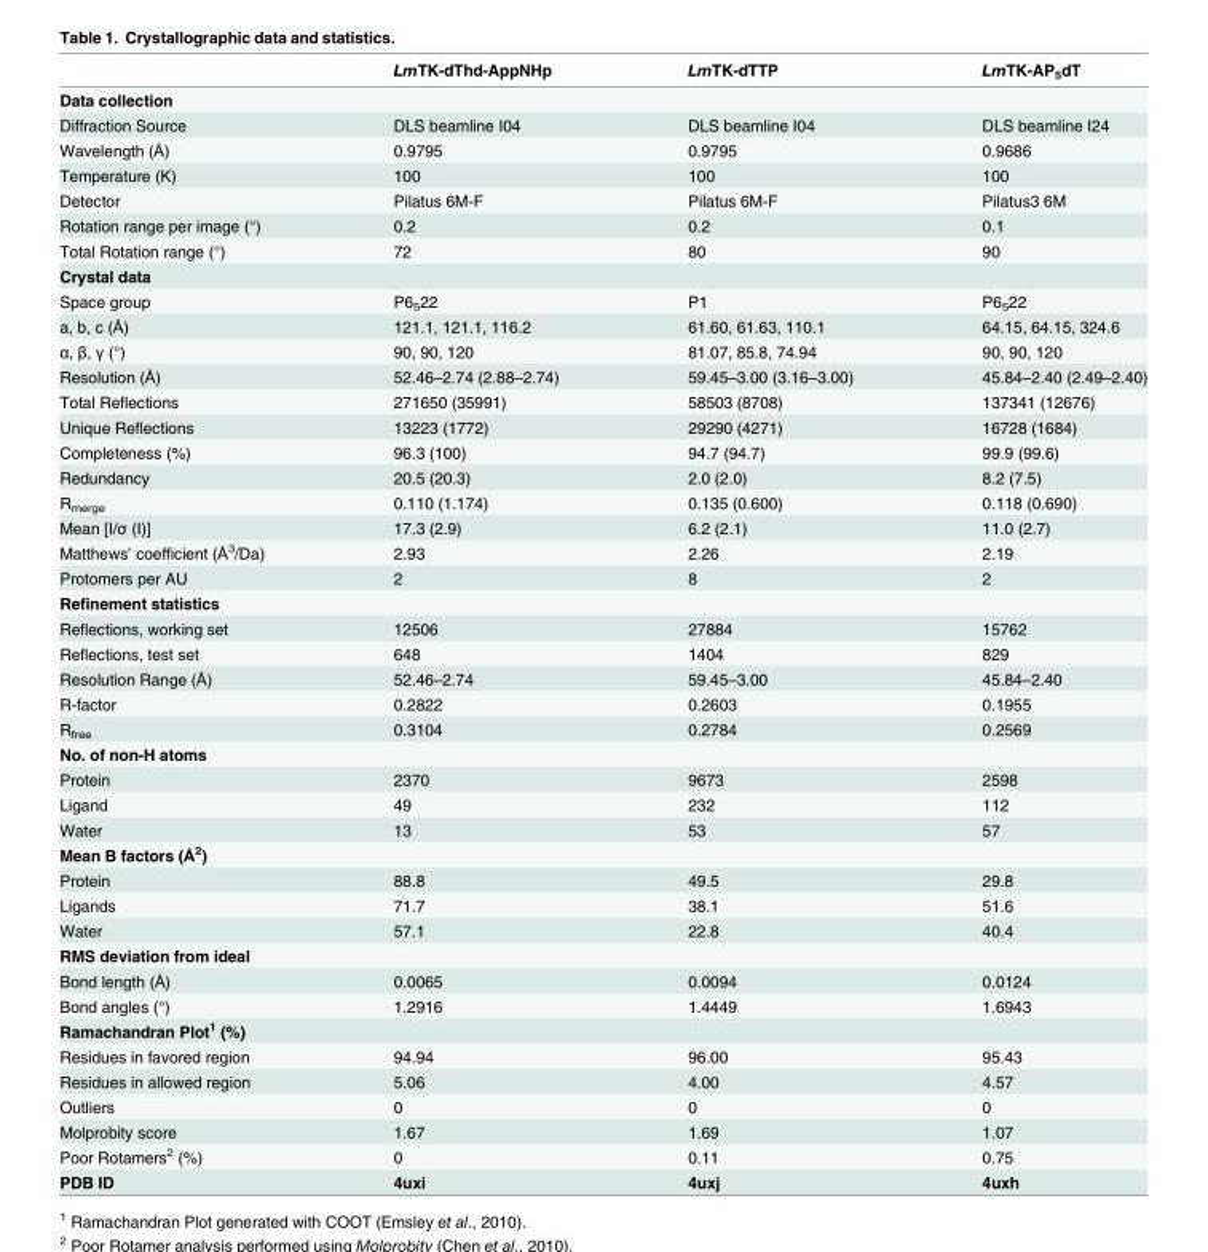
<table><thead><tr><td></td><td>LmTK-dThd-AppNHp</td><td>LmTK-dTTP</td><td>LmTK-AP<sub>5</sub>dT</td></tr></thead><tbody><tr><td colspan="4">Data collection</td></tr><tr><td>Diffraction Source</td><td>DLS beamline I04</td><td>DLS beamline I04</td><td>DLS beamline I24</td></tr><tr><td>Wavelength (Å)</td><td>0.9795</td><td>0.9795</td><td>0.9686</td></tr><tr><td>Temperature (K)</td><td>100</td><td>100</td><td>100</td></tr><tr><td>Detector</td><td>Pilatus 6M-F</td><td>Pilatus 6M-F</td><td>Pilatus3 6M</td></tr><tr><td>Rotation range per image (°)</td><td>0.2</td><td>0.2</td><td>0.1</td></tr><tr><td>Total Rotation range (°)</td><td>72</td><td>80</td><td>90</td></tr><tr><td colspan="4">Crystal data</td></tr><tr><td>Space group</td><td>P6<sub>5</sub>22</td><td>P1</td><td>P6<sub>5</sub>22</td></tr><tr><td>a, b, c (Å)</td><td>121.1, 121.1, 116.2</td><td>61.60, 61.63, 110.1</td><td>64.15, 64.15, 324.6</td></tr><tr><td>α, β, γ (°)</td><td>90, 90, 120</td><td>81.07, 85.8, 74.94</td><td>90, 90, 120</td></tr><tr><td>Resolution (Å)</td><td>52.46–2.74 (2.88–2.74)</td><td>59.45–3.00 (3.16–3.00)</td><td>45.84–2.40 (2.49–2.40)</td></tr><tr><td>Total Reflections</td><td>271650 (35991)</td><td>58503 (8708)</td><td>137341 (12676)</td></tr><tr><td>Unique Reflections</td><td>13223 (1772)</td><td>29290 (4271)</td><td>16728 (1684)</td></tr><tr><td>Completeness (%)</td><td>96.3 (100)</td><td>94.7 (94.7)</td><td>99.9 (99.6)</td></tr><tr><td>Redundancy</td><td>20.5 (20.3)</td><td>2.0 (2.0)</td><td>8.2 (7.5)</td></tr><tr><td>R<sub>merge</sub></td><td>0.110 (1.174)</td><td>0.135 (0.600)</td><td>0.118 (0.690)</td></tr><tr><td>Mean [I/σ (I)]</td><td>17.3 (2.9)</td><td>6.2 (2.1)</td><td>11.0 (2.7)</td></tr><tr><td>Matthews’ coefficient (Å<sup>3</sup>/Da)</td><td>2.93</td><td>2.26</td><td>2.19</td></tr><tr><td>Protomers per AU</td><td>2</td><td>8</td><td>2</td></tr><tr><td colspan="4">Refinement statistics</td></tr><tr><td>Reflections, working set</td><td>12506</td><td>27884</td><td>15762</td></tr><tr><td>Reflections, test set</td><td>648</td><td>1404</td><td>829</td></tr><tr><td>Resolution Range (Å)</td><td>52.46–2.74</td><td>59.45–3.00</td><td>45.84–2.40</td></tr><tr><td>R-factor</td><td>0.2822</td><td>0.2603</td><td>0.1955</td></tr><tr><td>R<sub>free</sub></td><td>0.3104</td><td>0.2784</td><td>0.2569</td></tr><tr><td colspan="4">No. of non-H atoms</td></tr><tr><td>Protein</td><td>2370</td><td>9673</td><td>2598</td></tr><tr><td>Ligand</td><td>49</td><td>232</td><td>112</td></tr><tr><td>Water</td><td>13</td><td>53</td><td>57</td></tr><tr><td colspan="4">Mean B factors (Å<sup>2</sup>)</td></tr><tr><td>Protein</td><td>88.8</td><td>49.5</td><td>29.8</td></tr><tr><td>Ligands</td><td>71.7</td><td>38.1</td><td>51.6</td></tr><tr><td>Water</td><td>57.1</td><td>22.8</td><td>40.4</td></tr><tr><td colspan="4">RMS deviation from ideal</td></tr><tr><td>Bond length (Å)</td><td>0.0065</td><td>0.0094</td><td>0.0124</td></tr><tr><td>Bond angles (°)</td><td>1.2916</td><td>1.4449</td><td>1.6943</td></tr><tr><td colspan="4">Ramachandran Plot<sup>1</sup> (%)</td></tr><tr><td>Residues in favored region</td><td>94.94</td><td>96.00</td><td>95.43</td></tr><tr><td>Residues in allowed region</td><td>5.06</td><td>4.00</td><td>4.57</td></tr><tr><td>Outliers</td><td>0</td><td>0</td><td>0</td></tr><tr><td>Molprobity score</td><td>1.67</td><td>1.69</td><td>1.07</td></tr><tr><td>Poor Rotamers<sup>2</sup> (%)</td><td>0</td><td>0.11</td><td>0.75</td></tr><tr><td>PDB ID</td><td>4uxi</td><td>4uxj</td><td>4uxh</td></tr></tbody></table>